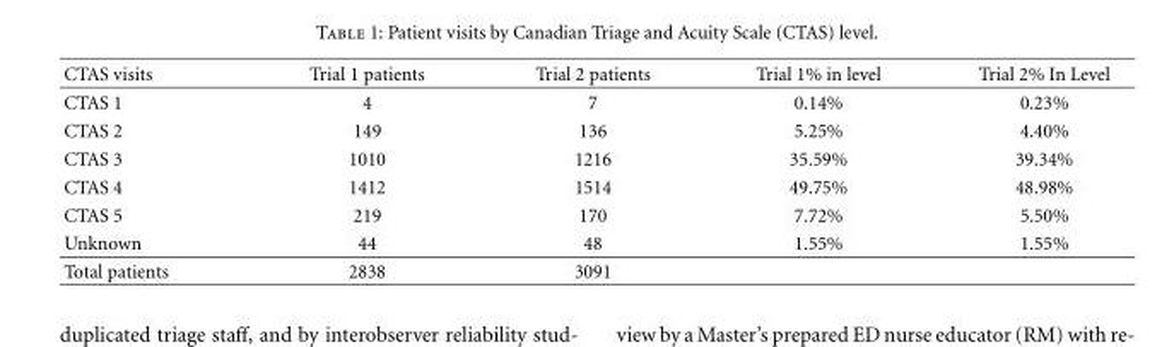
<table><thead><tr><td>CTAS visits</td><td>Trial 1 patients</td><td>Trial 2 patients</td><td>Trial 1% in level</td><td>Trial 2% In Level</td></tr></thead><tbody><tr><td>CTAS 1</td><td>4</td><td>7</td><td>0.14%</td><td>0.23%</td></tr><tr><td>CTAS 2</td><td>149</td><td>136</td><td>5.25%</td><td>4.40%</td></tr><tr><td>CTAS 3</td><td>1010</td><td>1216</td><td>35.59%</td><td>39.34%</td></tr><tr><td>CTAS 4</td><td>1412</td><td>1514</td><td>49.75%</td><td>48.98%</td></tr><tr><td>CTAS 5</td><td>219</td><td>170</td><td>7.72%</td><td>5.50%</td></tr><tr><td>Unknown</td><td>44</td><td>48</td><td>1.55%</td><td>1.55%</td></tr><tr><td>Total patients</td><td>2838</td><td>3091</td><td></td><td></td></tr></tbody></table>